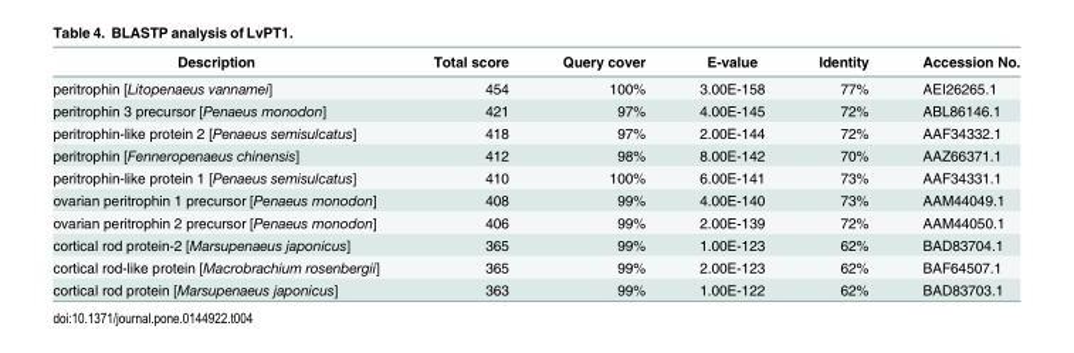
<table><thead><tr><td>Description</td><td>Total score</td><td>Query cover</td><td>E-value</td><td>Identity</td><td>Accession No.</td></tr></thead><tbody><tr><td>peritrophin [Litopenaeus vannamei]</td><td>454</td><td>100%</td><td>3.00E-158</td><td>77%</td><td>AEI26265.1</td></tr><tr><td>peritrophin 3 precursor [Penaeus monodon]</td><td>421</td><td>97%</td><td>4.00E-145</td><td>72%</td><td>ABL86146.1</td></tr><tr><td>peritrophin-like protein 2 [Penaeus semisulcatus]</td><td>418</td><td>97%</td><td>2.00E-144</td><td>72%</td><td>AAF34332.1</td></tr><tr><td>peritrophin [Fenneropenaeus chinensis]</td><td>412</td><td>98%</td><td>8.00E-142</td><td>70%</td><td>AAZ66371.1</td></tr><tr><td>peritrophin-like protein 1 [Penaeus semisulcatus]</td><td>410</td><td>100%</td><td>6.00E-141</td><td>73%</td><td>AAF34331.1</td></tr><tr><td>ovarian peritrophin 1 precursor [Penaeus monodon]</td><td>408</td><td>99%</td><td>4.00E-140</td><td>73%</td><td>AAM44049.1</td></tr><tr><td>ovarian peritrophin 2 precursor [Penaeus monodon]</td><td>406</td><td>99%</td><td>2.00E-139</td><td>72%</td><td>AAM44050.1</td></tr><tr><td>cortical rod protein-2 [Marsupenaeus japonicus]</td><td>365</td><td>99%</td><td>1.00E-123</td><td>62%</td><td>BAD83704.1</td></tr><tr><td>cortical rod-like protein [Macrobrachium rosenbergii]</td><td>365</td><td>99%</td><td>2.00E-123</td><td>62%</td><td>BAF64507.1</td></tr><tr><td>cortical rod protein [Marsupenaeus japonicus]</td><td>363</td><td>99%</td><td>1.00E-122</td><td>62%</td><td>BAD83703.1</td></tr></tbody></table>